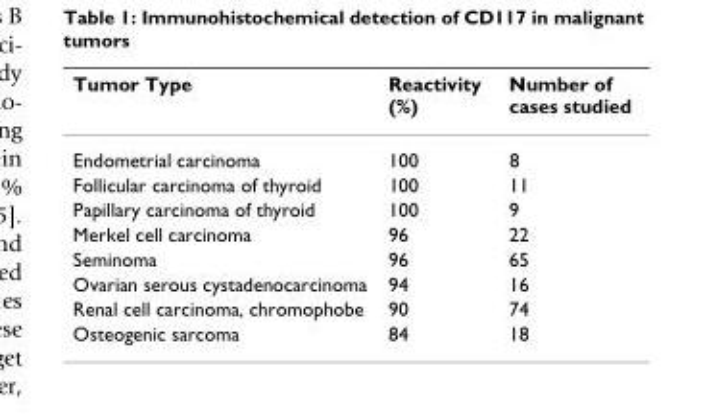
<table><thead><tr><td>Tumor Type</td><td>Reactivity (%)</td><td>Number of cases studied</td></tr></thead><tbody><tr><td>Endometrial carcinoma</td><td>100</td><td>8</td></tr><tr><td>Follicular carcinoma of thyroid</td><td>100</td><td>11</td></tr><tr><td>Papillary carcinoma of thyroid</td><td>100</td><td>9</td></tr><tr><td>Merkel cell carcinoma</td><td>96</td><td>22</td></tr><tr><td>Seminoma</td><td>96</td><td>65</td></tr><tr><td>Ovarian serous cystadenocarcinoma</td><td>94</td><td>16</td></tr><tr><td>Renal cell carcinoma, chromophobe</td><td>90</td><td>74</td></tr><tr><td>Osteogenic sarcoma</td><td>84</td><td>18</td></tr></tbody></table>